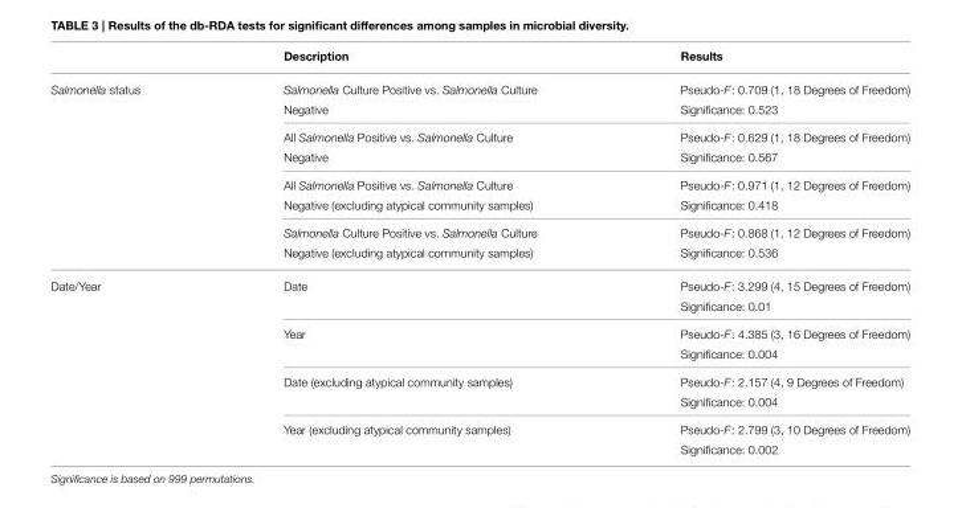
<table><thead><tr><td></td><td>Description</td><td>Results</td></tr></thead><tbody><tr><td rowspan="8">Salmonella status</td><td>Salmonella Culture Positive vs. Salmonella Culture</td><td>Pseudo-F: 0.709 (1, 18 Degrees of Freedom)</td></tr><tr><td>Negative</td><td>Significance: 0.523</td></tr><tr><td>All Salmonella Positive vs. Salmonella Culture</td><td>Pseudo-F: 0.629 (1, 18 Degrees of Freedom)</td></tr><tr><td>Negative</td><td>Significance: 0.567</td></tr><tr><td>All Salmonella Positive vs. Salmonella Culture</td><td>Pseudo-F: 0.971 (1, 12 Degrees of Freedom)</td></tr><tr><td>Negative (excluding atypical community samples)</td><td>Significance: 0.418</td></tr><tr><td>Salmonella Culture Positive vs. Salmonella Culture</td><td>Pseudo-F: 0.868 (1, 12 Degrees of Freedom)</td></tr><tr><td>Negative (excluding atypical community samples)</td><td>Significance: 0.536</td></tr><tr><td rowspan="8">Date/Year</td><td>Date</td><td>Pseudo-F: 3.299 (4, 15 Degrees of Freedom)</td></tr><tr><td></td><td>Significance: 0.01</td></tr><tr><td>Year</td><td>Pseudo-F: 4.385 (3, 16 Degrees of Freedom)</td></tr><tr><td></td><td>Significance: 0.004</td></tr><tr><td>Date (excluding atypical community samples)</td><td>Pseudo-F: 2.157 (4, 9 Degrees of Freedom)</td></tr><tr><td></td><td>Significance: 0.004</td></tr><tr><td>Year (excluding atypical community samples)</td><td>Pseudo-F: 2.799 (3, 10 Degrees of Freedom)</td></tr><tr><td></td><td>Significance: 0.002</td></tr></tbody></table>